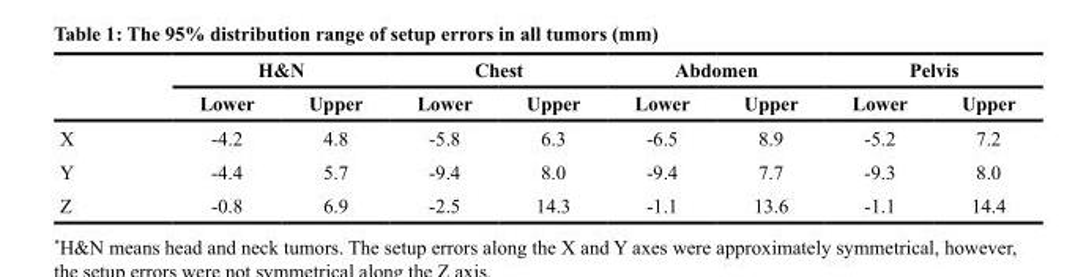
<table><thead><tr><td rowspan="2"></td><td colspan="2">H&amp;N</td><td colspan="2">Chest</td><td colspan="2">Abdomen</td><td colspan="2">Pelvis</td></tr><tr><td>Lower</td><td>Upper</td><td>Lower</td><td>Upper</td><td>Lower</td><td>Upper</td><td>Lower</td><td>Upper</td></tr></thead><tbody><tr><td>X</td><td>-4.2</td><td>4.8</td><td>-5.8</td><td>6.3</td><td>-6.5</td><td>8.9</td><td>-5.2</td><td>7.2</td></tr><tr><td>Y</td><td>-4.4</td><td>5.7</td><td>-9.4</td><td>8.0</td><td>-9.4</td><td>7.7</td><td>-9.3</td><td>8.0</td></tr><tr><td>Z</td><td>-0.8</td><td>6.9</td><td>-2.5</td><td>14.3</td><td>-1.1</td><td>13.6</td><td>-1.1</td><td>14.4</td></tr></tbody></table>